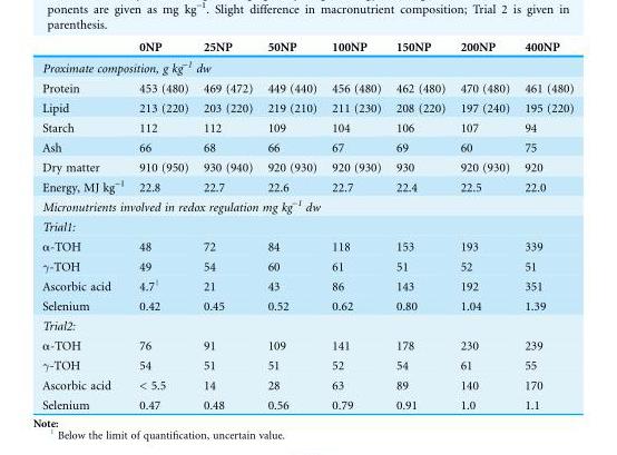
<table><thead><tr><td></td><td>0NP</td><td>25NP</td><td>50NP</td><td>100NP</td><td>150NP</td><td>200NP</td><td>400NP</td></tr></thead><tbody><tr><td colspan="8">Proximate composition, g kg<sup>-1</sup> dw</td></tr><tr><td>Protein</td><td>453 (480)</td><td>469 (472)</td><td>449 (440)</td><td>456 (480)</td><td>462 (480)</td><td>470 (480)</td><td>461 (480)</td></tr><tr><td>Lipid</td><td>213 (220)</td><td>203 (220)</td><td>219 (210)</td><td>211 (230)</td><td>208 (220)</td><td>197 (240)</td><td>195 (220)</td></tr><tr><td>Starch</td><td>112</td><td>112</td><td>109</td><td>104</td><td>106</td><td>107</td><td>94</td></tr><tr><td>Ash</td><td>66</td><td>68</td><td>66</td><td>67</td><td>69</td><td>60</td><td>75</td></tr><tr><td>Dry matter</td><td>910 (950)</td><td>930 (940)</td><td>920 (930)</td><td>920 (930)</td><td>930</td><td>920 (930)</td><td>920</td></tr><tr><td>Energy, MJ kg<sup>-1</sup></td><td>22.8</td><td>22.7</td><td>22.6</td><td>22.7</td><td>22.4</td><td>22.5</td><td>22.0</td></tr><tr><td colspan="8">Micronutrients involved in redox regulation mg kg<sup>-1</sup> dw</td></tr><tr><td colspan="8">Trial1:</td></tr><tr><td>α-TOH</td><td>48</td><td>72</td><td>84</td><td>118</td><td>153</td><td>193</td><td>339</td></tr><tr><td>γ-TOH</td><td>49</td><td>54</td><td>60</td><td>61</td><td>51</td><td>52</td><td>51</td></tr><tr><td>Ascorbic acid</td><td>4.7<sup>1</sup></td><td>21</td><td>43</td><td>86</td><td>143</td><td>192</td><td>351</td></tr><tr><td>Selenium</td><td>0.42</td><td>0.45</td><td>0.52</td><td>0.62</td><td>0.80</td><td>1.04</td><td>1.39</td></tr><tr><td colspan="8">Trial2:</td></tr><tr><td>α-TOH</td><td>76</td><td>91</td><td>109</td><td>141</td><td>178</td><td>230</td><td>239</td></tr><tr><td>γ-TOH</td><td>54</td><td>51</td><td>51</td><td>52</td><td>54</td><td>61</td><td>55</td></tr><tr><td>Ascorbic acid</td><td>&lt; 5.5</td><td>14</td><td>28</td><td>63</td><td>89</td><td>140</td><td>170</td></tr><tr><td>Selenium</td><td>0.47</td><td>0.48</td><td>0.56</td><td>0.79</td><td>0.91</td><td>1.0</td><td>1.1</td></tr></tbody></table>